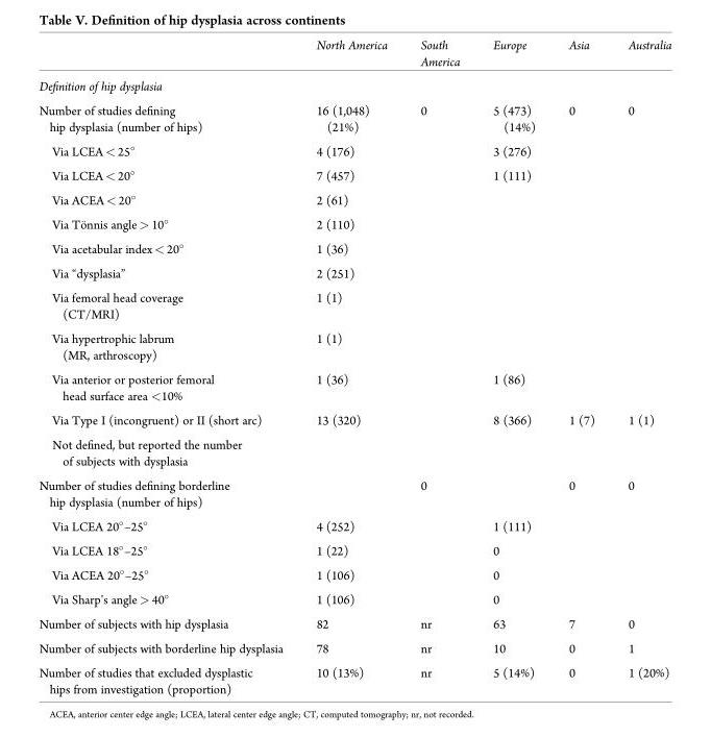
<table><thead><tr><td></td><td>North America</td><td>South America</td><td>Europe</td><td>Asia</td><td>Australia</td></tr></thead><tbody><tr><td colspan="6">Definition of hip dysplasia</td></tr><tr><td>Number of studies defining hip dysplasia (number of hips)</td><td>16 (1,048) (21%)</td><td>0</td><td>5 (473) (14%)</td><td>0</td><td>0</td></tr><tr><td>Via LCEA &lt; 25°</td><td>4 (176)</td><td></td><td>3 (276)</td><td></td><td></td></tr><tr><td>Via LCEA &lt; 20°</td><td>7 (457)</td><td></td><td>1 (111)</td><td></td><td></td></tr><tr><td>Via ACEA &lt; 20°</td><td>2 (61)</td><td></td><td></td><td></td><td></td></tr><tr><td>Via To¨nnis angle &gt; 10�</td><td>2 (110)</td><td></td><td></td><td></td><td></td></tr><tr><td>Via acetabular index &lt; 20°</td><td>1 (36)</td><td></td><td></td><td></td><td></td></tr><tr><td>Via “dysplasia”</td><td>2 (251)</td><td></td><td></td><td></td><td></td></tr><tr><td>Via femoral head coverage (CT/MRI)</td><td>1 (1)</td><td></td><td></td><td></td><td></td></tr><tr><td>Via hypertrophic labrum (MR, arthroscopy)</td><td>1 (1)</td><td></td><td></td><td></td><td></td></tr><tr><td>Via anterior or posterior femoral head surface area &lt;10%</td><td>1 (36)</td><td></td><td>1 (86)</td><td></td><td></td></tr><tr><td>Via Type I (incongruent) or II (short arc)</td><td>13 (320)</td><td></td><td>8 (366)</td><td>1 (7)</td><td>1 (1)</td></tr><tr><td colspan="6">Not defined, but reported the number of subjects with dysplasia</td></tr><tr><td>Number of studies defining borderline hip dysplasia (number of hips)</td><td></td><td>0</td><td></td><td>0</td><td>0</td></tr><tr><td>Via LCEA 20°–25°</td><td>4 (252)</td><td></td><td>1 (111)</td><td></td><td></td></tr><tr><td>Via LCEA 18°–25°</td><td>1 (22)</td><td></td><td>0</td><td></td><td></td></tr><tr><td>Via ACEA 20°–25°</td><td>1 (106)</td><td></td><td>0</td><td></td><td></td></tr><tr><td>Via Sharp’s angle &gt; 40°</td><td>1 (106)</td><td></td><td>0</td><td></td><td></td></tr><tr><td>Number of subjects with hip dysplasia</td><td>82</td><td>nr</td><td>63</td><td>7</td><td>0</td></tr><tr><td>Number of subjects with borderline hip dysplasia</td><td>78</td><td>nr</td><td>10</td><td>0</td><td>1</td></tr><tr><td>Number of studies that excluded dysplastic hips from investigation (proportion)</td><td>10 (13%)</td><td>nr</td><td>5 (14%)</td><td>0</td><td>1 (20%)</td></tr></tbody></table>